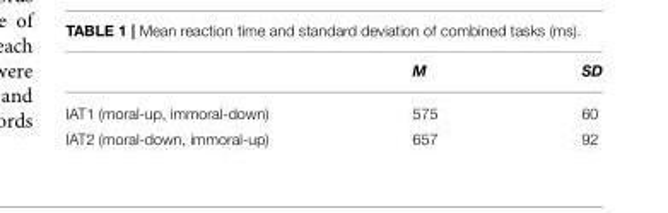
<table><thead><tr><td></td><td>M</td><td>SD</td></tr></thead><tbody><tr><td>IAT1 (moral-up, immoral-down)</td><td>575</td><td>60</td></tr><tr><td>IAT2 (moral-down, immoral-up)</td><td>657</td><td>92</td></tr></tbody></table>